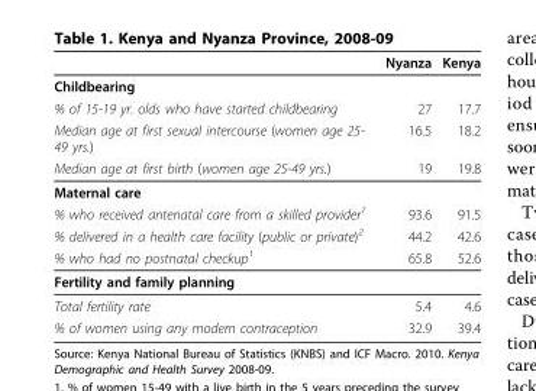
<table><thead><tr><td></td><td>Nyanza</td><td>Kenya</td></tr></thead><tbody><tr><td colspan="3">Childbearing</td></tr><tr><td>% of 15-19 yr. olds who have started childbearing</td><td>27</td><td>17.7</td></tr><tr><td>Median age at first sexual intercourse (women age 25- 49 yrs.)</td><td>16.5</td><td>18.2</td></tr><tr><td>Median age at first birth (women age 25-49 yrs.)</td><td>19</td><td>19.8</td></tr><tr><td colspan="3">Maternal care</td></tr><tr><td>% who received antenatal care from a skilled provider<sup>1</sup></td><td>93.6</td><td>91.5</td></tr><tr><td>% delivered in a health care facility (public or private)<sup>2</sup></td><td>44.2</td><td>42.6</td></tr><tr><td>% who had no postnatal checkup<sup>1</sup></td><td>65.8</td><td>52.6</td></tr><tr><td colspan="3">Fertility and family planning</td></tr><tr><td>Total fertility rate</td><td>5.4</td><td>4.6</td></tr><tr><td>% of women using any modern contraception</td><td>32.9</td><td>39.4</td></tr></tbody></table>